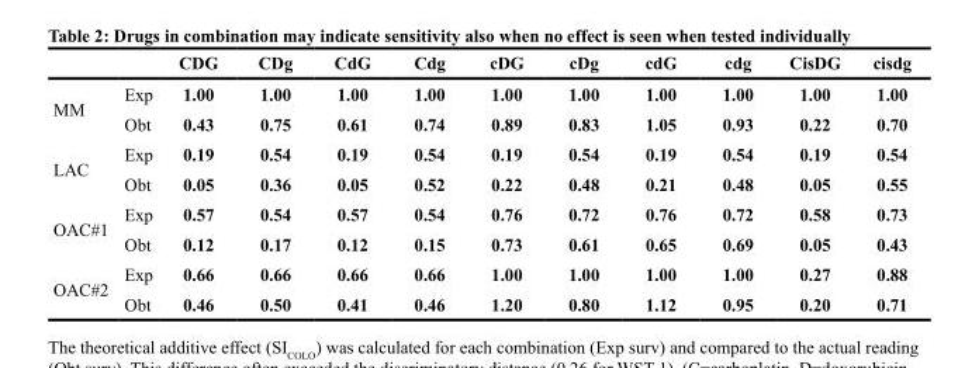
<table><thead><tr><td></td><td></td><td>CDG</td><td>CDg</td><td>CdG</td><td>Cdg</td><td>cDG</td><td>cDg</td><td>cdG</td><td>cdg</td><td>CisDG</td><td>cisdg</td></tr></thead><tbody><tr><td rowspan="2">MM</td><td>Exp</td><td>1.00</td><td>1.00</td><td>1.00</td><td>1.00</td><td>1.00</td><td>1.00</td><td>1.00</td><td>1.00</td><td>1.00</td><td>1.00</td></tr><tr><td>Obt</td><td>0.43</td><td>0.75</td><td>0.61</td><td>0.74</td><td>0.89</td><td>0.83</td><td>1.05</td><td>0.93</td><td>0.22</td><td>0.70</td></tr><tr><td rowspan="2">LAC</td><td>Exp</td><td>0.19</td><td>0.54</td><td>0.19</td><td>0.54</td><td>0.19</td><td>0.54</td><td>0.19</td><td>0.54</td><td>0.19</td><td>0.54</td></tr><tr><td>Obt</td><td>0.05</td><td>0.36</td><td>0.05</td><td>0.52</td><td>0.22</td><td>0.48</td><td>0.21</td><td>0.48</td><td>0.05</td><td>0.55</td></tr><tr><td rowspan="2">OAC#1</td><td>Exp</td><td>0.57</td><td>0.54</td><td>0.57</td><td>0.54</td><td>0.76</td><td>0.72</td><td>0.76</td><td>0.72</td><td>0.58</td><td>0.73</td></tr><tr><td>Obt</td><td>0.12</td><td>0.17</td><td>0.12</td><td>0.15</td><td>0.73</td><td>0.61</td><td>0.65</td><td>0.69</td><td>0.05</td><td>0.43</td></tr><tr><td rowspan="2">OAC#2</td><td>Exp</td><td>0.66</td><td>0.66</td><td>0.66</td><td>0.66</td><td>1.00</td><td>1.00</td><td>1.00</td><td>1.00</td><td>0.27</td><td>0.88</td></tr><tr><td>Obt</td><td>0.46</td><td>0.50</td><td>0.41</td><td>0.46</td><td>1.20</td><td>0.80</td><td>1.12</td><td>0.95</td><td>0.20</td><td>0.71</td></tr></tbody></table>